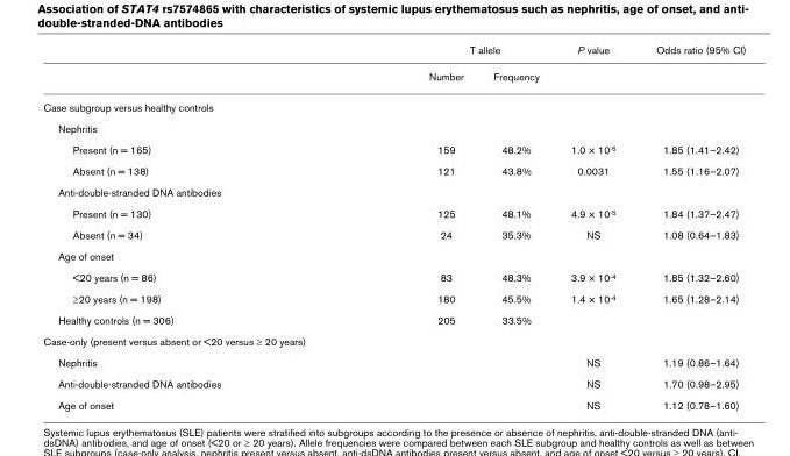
<table><thead><tr><td rowspan="2"></td><td colspan="2">T allele</td><td rowspan="2">P value</td><td rowspan="2">Odds ratio (95% CI)</td></tr><tr><td>Number</td><td>Frequency</td></tr></thead><tbody><tr><td colspan="5">Case subgroup versus healthy controls</td></tr><tr><td colspan="5">Nephritis</td></tr><tr><td>Present (n = 165)</td><td>159</td><td>48.2%</td><td>1.0 × 10<sup>-5</sup></td><td>1.85 (1.41–2.42)</td></tr><tr><td>Absent (n = 138)</td><td>121</td><td>43.8%</td><td>0.0031</td><td>1.55 (1.16–2.07)</td></tr><tr><td colspan="5">Anti-double-stranded DNA antibodies</td></tr><tr><td>Present (n = 130)</td><td>125</td><td>48.1%</td><td>4.9 × 10<sup>-5</sup></td><td>1.84 (1.37–2.47)</td></tr><tr><td>Absent (n = 34)</td><td>24</td><td>35.3%</td><td>NS</td><td>1.08 (0.64–1.83)</td></tr><tr><td colspan="5">Age of onset</td></tr><tr><td>&lt;20 years (n = 86)</td><td>83</td><td>48.3%</td><td>3.9 × 10<sup>-4</sup></td><td>1.85 (1.32–2.60)</td></tr><tr><td>≥20 years (n = 198)</td><td>180</td><td>45.5%</td><td>1.4 × 10<sup>-4</sup></td><td>1.65 (1.28–2.14)</td></tr><tr><td>Healthy controls (n = 306)</td><td>205</td><td>33.5%</td><td></td><td></td></tr><tr><td colspan="5">Case-only (present versus absent or &lt;20 versus ≥ 20 years)</td></tr><tr><td>Nephritis</td><td></td><td></td><td>NS</td><td>1.19 (0.86–1.64)</td></tr><tr><td>Anti-double-stranded DNA antibodies</td><td></td><td></td><td>NS</td><td>1.70 (0.98–2.95)</td></tr><tr><td>Age of onset</td><td></td><td></td><td>NS</td><td>1.12 (0.78–1.60)</td></tr></tbody></table>